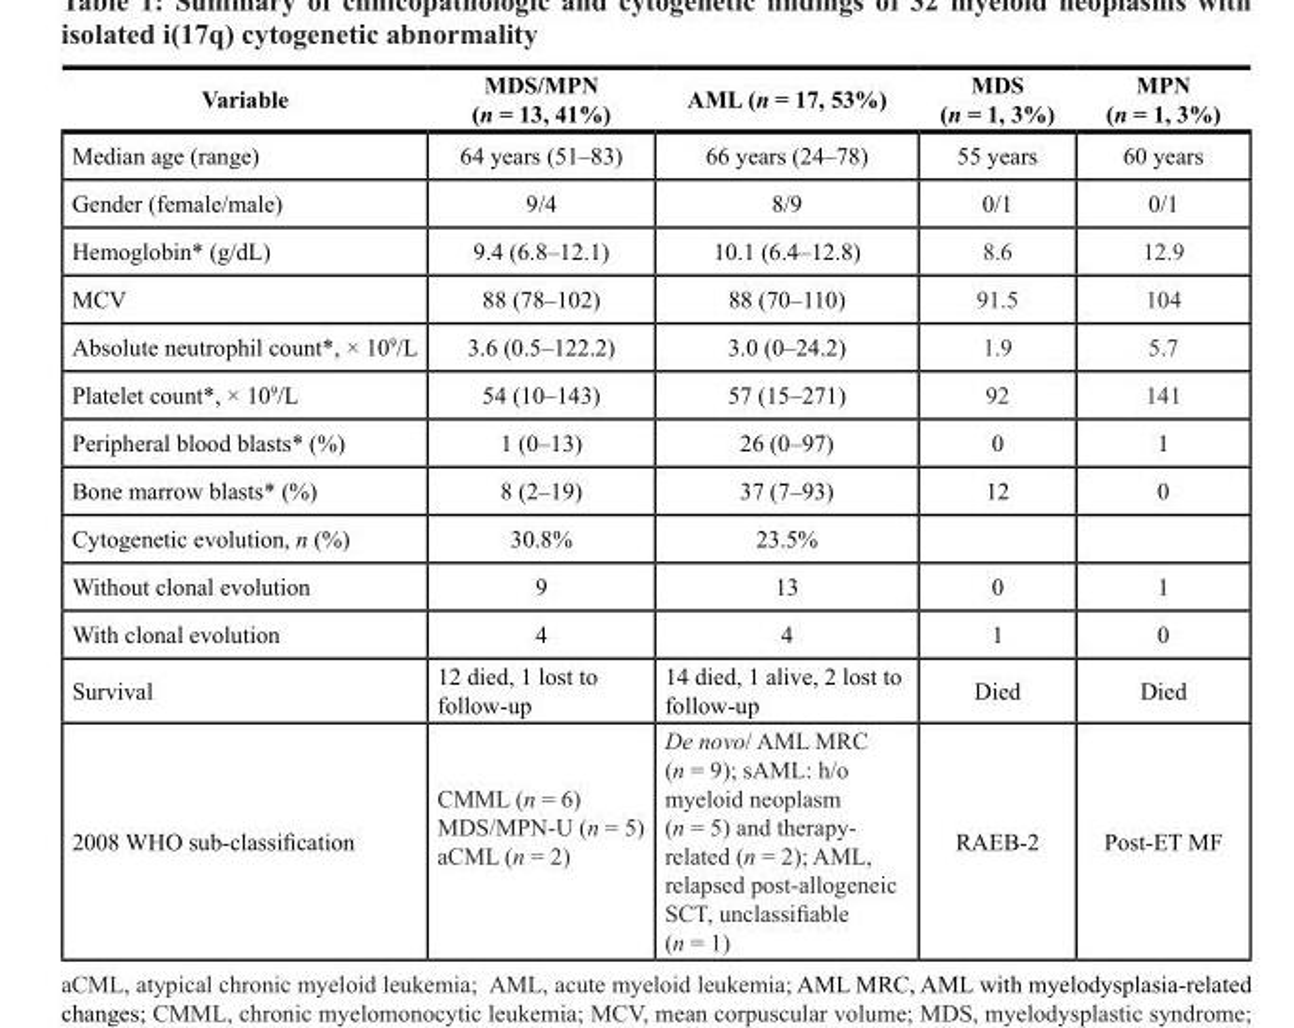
<table><thead><tr><td>Variable</td><td>MDS/MPN (n = 13, 41%)</td><td>AML (n = 17, 53%)</td><td>MDS (n = 1, 3%)</td><td>MPN (n = 1, 3%)</td></tr></thead><tbody><tr><td>Median age (range)</td><td>64 years (51–83)</td><td>66 years (24–78)</td><td>55 years</td><td>60 years</td></tr><tr><td>Gender (female/male)</td><td>9/4</td><td>8/9</td><td>0/1</td><td>0/1</td></tr><tr><td>Hemoglobin* (g/dL)</td><td>9.4 (6.8–12.1)</td><td>10.1 (6.4–12.8)</td><td>8.6</td><td>12.9</td></tr><tr><td>MCV</td><td>88 (78–102)</td><td>88 (70–110)</td><td>91.5</td><td>104</td></tr><tr><td>Absolute neutrophil count*, × 10<sup>9</sup>/L</td><td>3.6 (0.5–122.2)</td><td>3.0 (0–24.2)</td><td>1.9</td><td>5.7</td></tr><tr><td>Platelet count*, × 10<sup>9</sup>/L</td><td>54 (10–143)</td><td>57 (15–271)</td><td>92</td><td>141</td></tr><tr><td>Peripheral blood blasts* (%)</td><td>1 (0–13)</td><td>26 (0–97)</td><td>0</td><td>1</td></tr><tr><td>Bone marrow blasts* (%)</td><td>8 (2–19)</td><td>37 (7–93)</td><td>12</td><td>0</td></tr><tr><td>Cytogenetic evolution, n (%)</td><td>30.8%</td><td>23.5%</td><td></td><td></td></tr><tr><td>Without clonal evolution</td><td>9</td><td>13</td><td>0</td><td>1</td></tr><tr><td>With clonal evolution</td><td>4</td><td>4</td><td>1</td><td>0</td></tr><tr><td>Survival</td><td>12 died, 1 lost to follow-up</td><td>14 died, 1 alive, 2 lost to follow-up</td><td>Died</td><td>Died</td></tr><tr><td>2008 WHO sub-classification</td><td>CMML (n = 6) MDS/MPN-U (n = 5) aCML (n = 2)</td><td>De novo/ AML MRC (n = 9); sAML: h/o myeloid neoplasm (n = 5) and therapy- related (n = 2); AML, relapsed post-allogeneic SCT, unclassifiable (n = 1)</td><td>RAEB-2</td><td>Post-ET MF</td></tr></tbody></table>